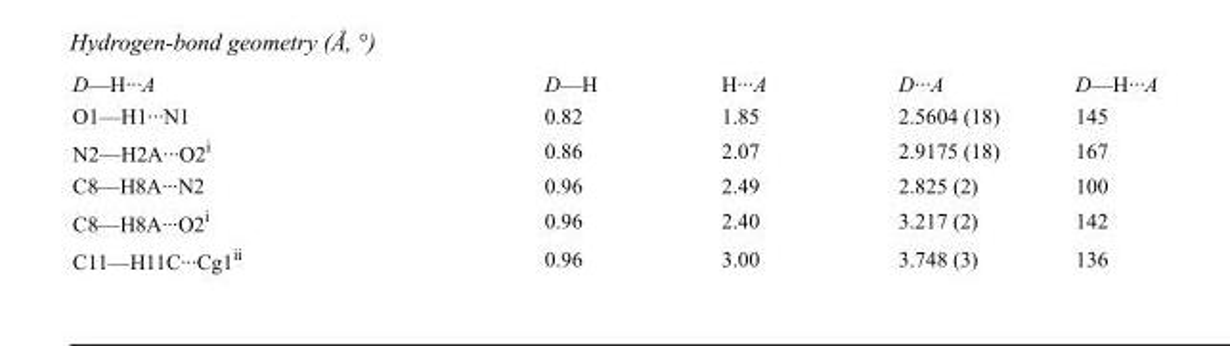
<table><tbody><tr><td>D—H···A</td><td>D—H</td><td>H···A</td><td>D···A</td><td>D—H···A</td></tr><tr><td>O1—H1···N1</td><td>0.82</td><td>1.85</td><td>2.5604 (18)</td><td>145</td></tr><tr><td>N2—H2A···O2<sup>i</sup></td><td>0.86</td><td>2.07</td><td>2.9175 (18)</td><td>167</td></tr><tr><td>C8—H8A···N2</td><td>0.96</td><td>2.49</td><td>2.825 (2)</td><td>100</td></tr><tr><td>C8—H8A···O2<sup>i</sup></td><td>0.96</td><td>2.40</td><td>3.217 (2)</td><td>142</td></tr><tr><td>C11—H11C···Cg1<sup>ii</sup></td><td>0.96</td><td>3.00</td><td>3.748 (3)</td><td>136</td></tr></tbody></table>